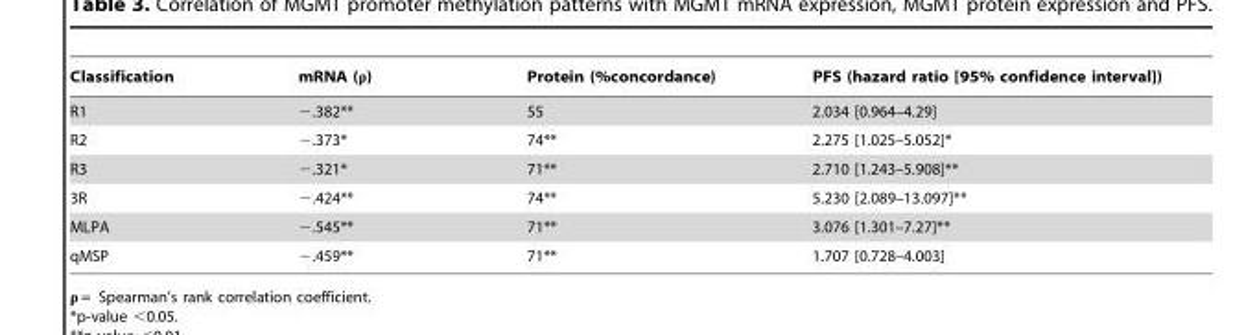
<table><thead><tr><td>Classification</td><td>mRNA (ρ)</td><td>Protein (%concordance)</td><td>PFS (hazard ratio [95% confidence interval])</td></tr></thead><tbody><tr><td>R1</td><td>−.382**</td><td>55</td><td>2.034 [0.964–4.29]</td></tr><tr><td>R2</td><td>−.373*</td><td>74**</td><td>2.275 [1.025–5.052]*</td></tr><tr><td>R3</td><td>−.321*</td><td>71**</td><td>2.710 [1.243–5.908]**</td></tr><tr><td>3R</td><td>−.424**</td><td>74**</td><td>5.230 [2.089–13.097]**</td></tr><tr><td>MLPA</td><td>−.545**</td><td>71**</td><td>3.076 [1.301–7.27]**</td></tr><tr><td>qMSP</td><td>−.459**</td><td>71**</td><td>1.707 [0.728–4.003]</td></tr></tbody></table>